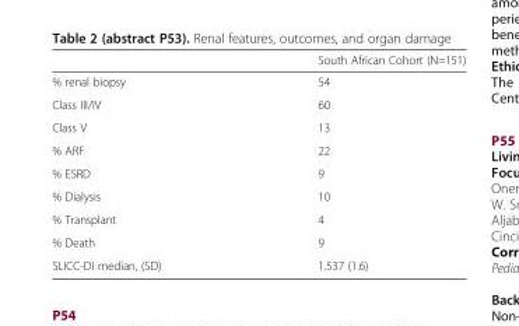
<table><thead><tr><td></td><td>South African Cohort (N=151)</td></tr></thead><tbody><tr><td>% renal biopsy</td><td>54</td></tr><tr><td>Class III/IV</td><td>60</td></tr><tr><td>Class V</td><td>13</td></tr><tr><td>% ARF</td><td>22</td></tr><tr><td>% ESRD</td><td>9</td></tr><tr><td>% Dialysis</td><td>10</td></tr><tr><td>% Transplant</td><td>4</td></tr><tr><td>% Death</td><td>9</td></tr><tr><td>SLICC-DI median, (SD)</td><td>1.537 (1.6)</td></tr></tbody></table>